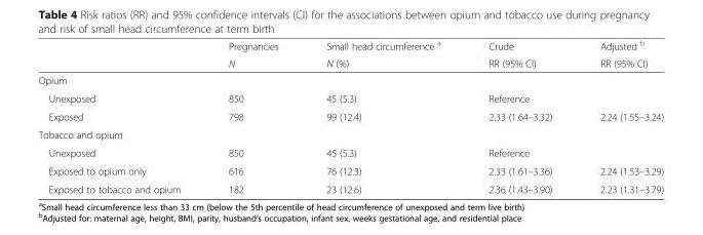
<table><thead><tr><td rowspan="2"></td><td rowspan="2">Pregnancies N</td><td rowspan="2">Small head circumference <sup>a</sup> N (%)</td><td rowspan="2">Crude RR (95% CI)</td><td rowspan="2">Adjusted <sup>b</sup> RR (95% CI)</td></tr><tr></tr></thead><tbody><tr><td colspan="5">Opium</td></tr><tr><td>Unexposed</td><td>850</td><td>45 (5.3)</td><td colspan="2">Reference</td></tr><tr><td>Exposed</td><td>798</td><td>99 (12.4)</td><td>2.33 (1.64–3.32)</td><td>2.24 (1.55–3.24)</td></tr><tr><td colspan="5">Tobacco and opium</td></tr><tr><td>Unexposed</td><td>850</td><td>45 (5.3)</td><td colspan="2">Reference</td></tr><tr><td>Exposed to opium only</td><td>616</td><td>76 (12.3)</td><td>2.33 (1.61–3.36)</td><td>2.24 (1.53–3.29)</td></tr><tr><td>Exposed to tobacco and opium</td><td>182</td><td>23 (12.6)</td><td>2.36 (1.43–3.90)</td><td>2.23 (1.31–3.79)</td></tr></tbody></table>